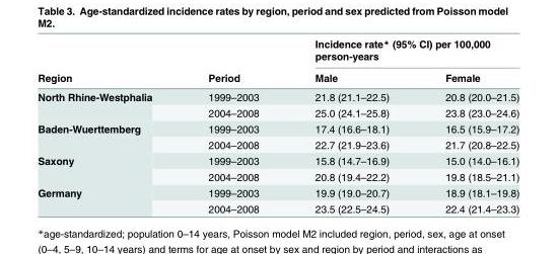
<table><thead><tr><td rowspan="2">Region</td><td rowspan="2">Period</td><td colspan="2">Incidence rate* (95% CI) per 100,000 person-years</td></tr><tr><td>Male</td><td>Female</td></tr></thead><tbody><tr><td rowspan="2">North Rhine-Westphalia</td><td>1999–2003</td><td>21.8 (21.1–22.5)</td><td>20.8 (20.0–21.5)</td></tr><tr><td>2004–2008</td><td>25.0 (24.1–25.8)</td><td>23.8 (23.0–24.6)</td></tr><tr><td rowspan="2">Baden-Wuerttemberg</td><td>1999–2003</td><td>17.4 (16.6–18.1)</td><td>16.5 (15.9–17.2)</td></tr><tr><td>2004–2008</td><td>22.7 (21.9–23.6)</td><td>21.7 (20.8–22.5)</td></tr><tr><td rowspan="2">Saxony</td><td>1999–2003</td><td>15.8 (14.7–16.9)</td><td>15.0 (14.0–16.1)</td></tr><tr><td>2004–2008</td><td>20.8 (19.4–22.2)</td><td>19.8 (18.5–21.1)</td></tr><tr><td rowspan="2">Germany</td><td>1999–2003</td><td>19.9 (19.0–20.7)</td><td>18.9 (18.1–19.8)</td></tr><tr><td>2004–2008</td><td>23.5 (22.5–24.5)</td><td>22.4 (21.4–23.3)</td></tr></tbody></table>